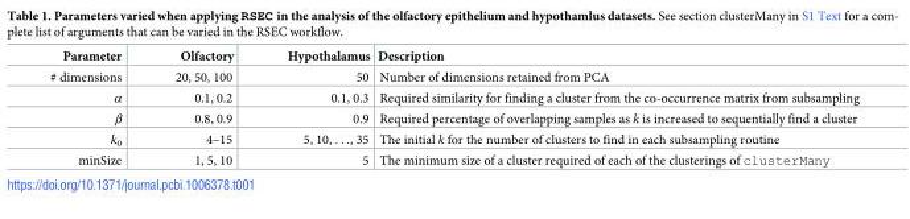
<table><thead><tr><td>Parameter</td><td>Olfactory</td><td>Hypothalamus</td><td>Description</td></tr></thead><tbody><tr><td># dimensions</td><td>20, 50, 100</td><td>50</td><td>Number of dimensions retained from PCA</td></tr><tr><td>α</td><td>0.1, 0.2</td><td>0.1, 0.3</td><td>Required similarity for finding a cluster from the co-occurrence matrix from subsampling</td></tr><tr><td>β</td><td>0.8, 0.9</td><td>0.9</td><td>Required percentage of overlapping samples as k is increased to sequentially find a cluster</td></tr><tr><td>k<sub>0</sub></td><td>4–15</td><td>5, 10, . . ., 35</td><td>The initial k for the number of clusters to find in each subsampling routine</td></tr><tr><td>minSize</td><td>1, 5, 10</td><td>5</td><td>The minimum size of a cluster required of each of the clusterings of clusterMany</td></tr></tbody></table>